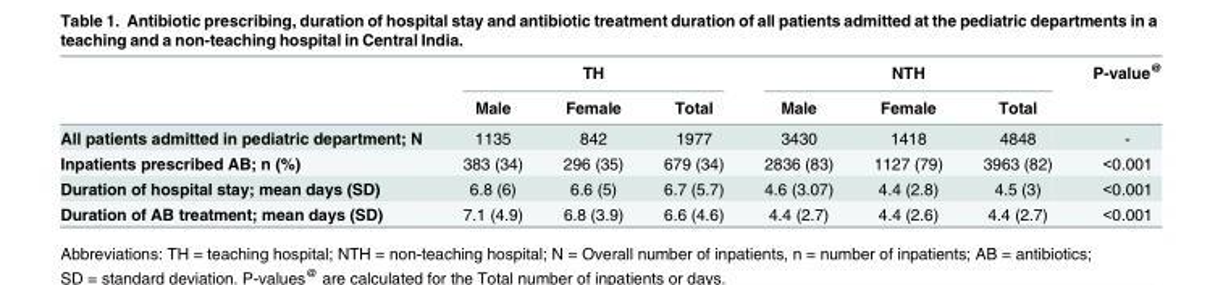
<table><thead><tr><td rowspan="2"></td><td colspan="3">TH</td><td colspan="3">NTH</td><td rowspan="2">P-value<sup>@</sup></td></tr><tr><td>Male</td><td>Female</td><td>Total</td><td>Male</td><td>Female</td><td>Total</td></tr></thead><tbody><tr><td>All patients admitted in pediatric department; N</td><td>1135</td><td>842</td><td>1977</td><td>3430</td><td>1418</td><td>4848</td><td>-</td></tr><tr><td>Inpatients prescribed AB; n (%)</td><td>383 (34)</td><td>296 (35)</td><td>679 (34)</td><td>2836 (83)</td><td>1127 (79)</td><td>3963 (82)</td><td>&lt;0.001</td></tr><tr><td>Duration of hospital stay; mean days (SD)</td><td>6.8 (6)</td><td>6.6 (5)</td><td>6.7 (5.7)</td><td>4.6 (3.07)</td><td>4.4 (2.8)</td><td>4.5 (3)</td><td>&lt;0.001</td></tr><tr><td>Duration of AB treatment; mean days (SD)</td><td>7.1 (4.9)</td><td>6.8 (3.9)</td><td>6.6 (4.6)</td><td>4.4 (2.7)</td><td>4.4 (2.6)</td><td>4.4 (2.7)</td><td>&lt;0.001</td></tr></tbody></table>